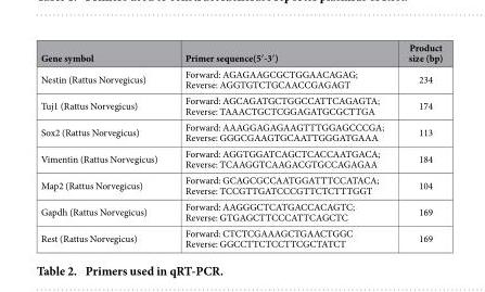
<table><thead><tr><td>Gene symbol</td><td>Primer sequence(5′ -3′ )</td><td>Product size (bp)</td></tr></thead><tbody><tr><td>Nestin (Rattus Norvegicus)</td><td>Forward: AGAGAAGCGCTGGAACAGAG; Reverse: AGGTGTCTGCAACCGAGAGT</td><td>234</td></tr><tr><td>Tuj1 (Rattus Norvegicus)</td><td>Forward: AGCAGATGCTGGCCATTCAGAGTA; Reverse: TAAACTGCTCGGAGATGCGCTTGA</td><td>174</td></tr><tr><td>Sox2 (Rattus Norvegicus)</td><td>Forward: AAAGGAGAGAAGTTTGGAGCCCGA; Reverse: GGGCGAAGTGCAATTGGGATGAAA</td><td>113</td></tr><tr><td>Vimentin (Rattus Norvegicus)</td><td>Forward: AGGTGGATCAGCTCACCAATGACA; Reverse: TCAAGGTCAAGACGTGCCAGAGAA</td><td>184</td></tr><tr><td>Map2 (Rattus Norvegicus)</td><td>Forward: GCAGCGCCAATGGATTTCCATACA; Reverse: TCCGTTGATCCCGTTCTCTTTGGT</td><td>104</td></tr><tr><td>Gapdh (Rattus Norvegicus)</td><td>Forward: AAGGGCTCATGACCACAGTC; Reverse: GTGAGCTTCCCATTCAGCTC</td><td>169</td></tr><tr><td>Rest (Rattus Norvegicus)</td><td>Forward: CTCTCGAAAGCTGAACTGGC Reverse: GGCCTTCTCCTTCGCTATCT</td><td>169</td></tr></tbody></table>